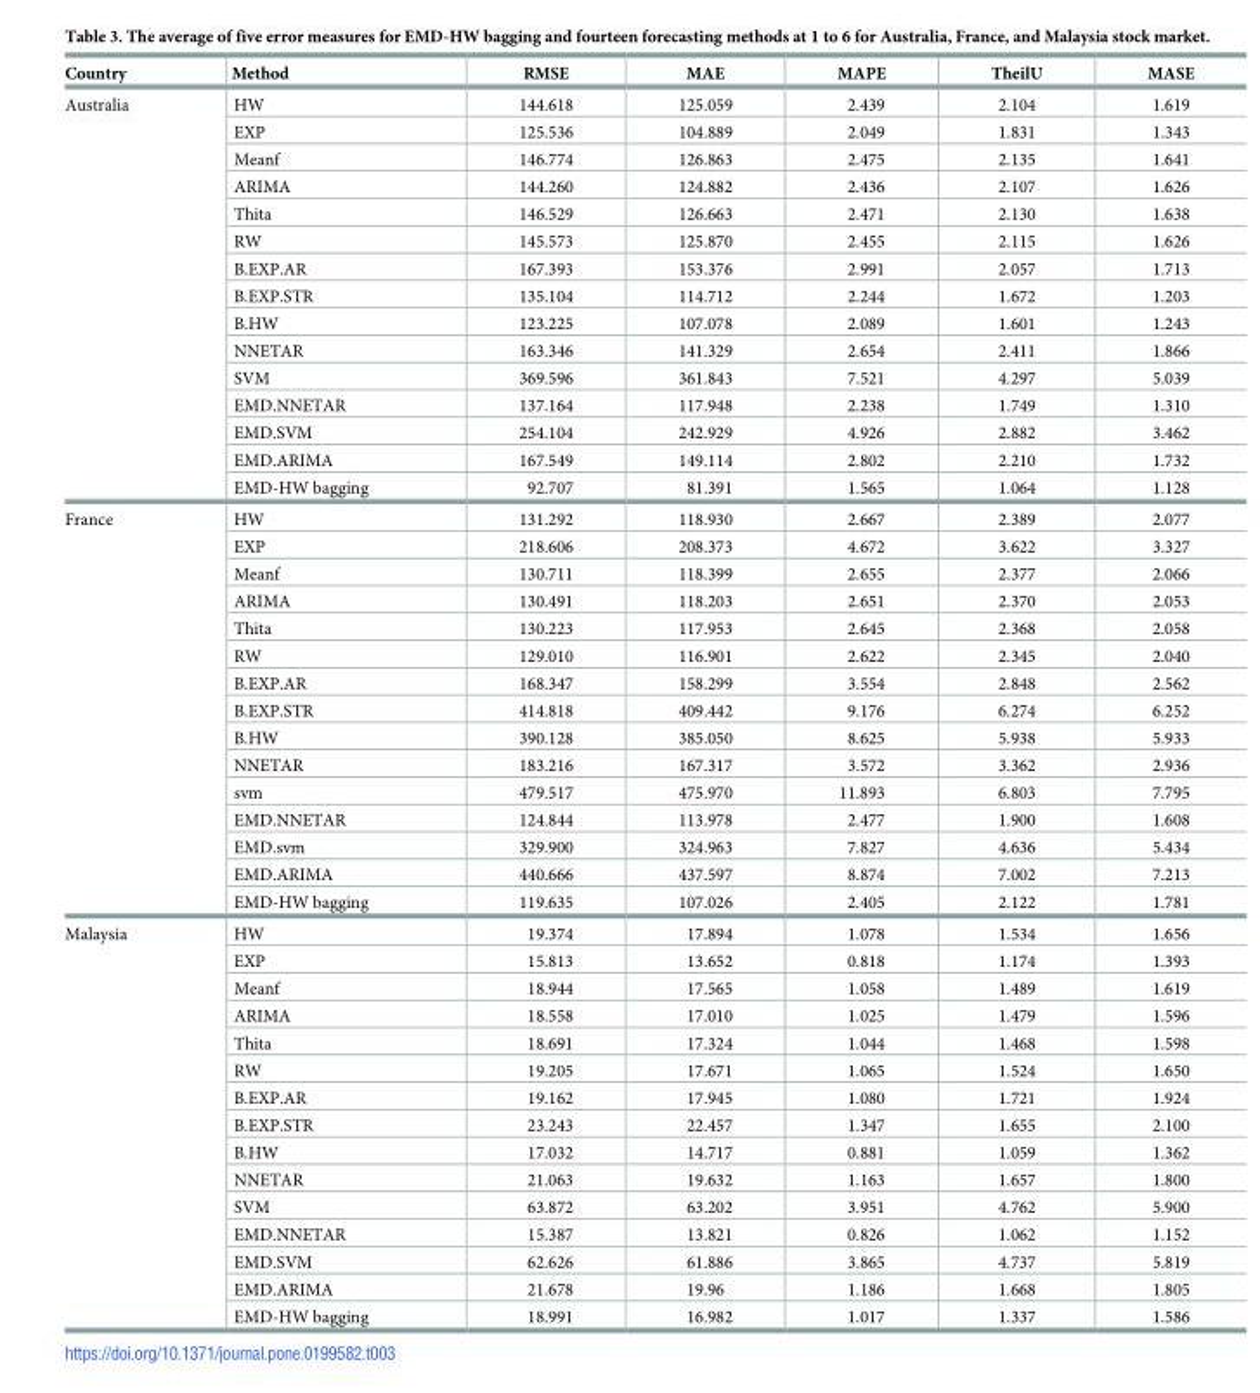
<table><thead><tr><td>Country</td><td>Method</td><td>RMSE</td><td>MAE</td><td>MAPE</td><td>TheilU</td><td>MASE</td></tr></thead><tbody><tr><td rowspan="15">Australia</td><td>HW</td><td>144.618</td><td>125.059</td><td>2.439</td><td>2.104</td><td>1.619</td></tr><tr><td>EXP</td><td>125.536</td><td>104.889</td><td>2.049</td><td>1.831</td><td>1.343</td></tr><tr><td>Meanf</td><td>146.774</td><td>126.863</td><td>2.475</td><td>2.135</td><td>1.641</td></tr><tr><td>ARIMA</td><td>144.260</td><td>124.882</td><td>2.436</td><td>2.107</td><td>1.626</td></tr><tr><td>Thita</td><td>146.529</td><td>126.663</td><td>2.471</td><td>2.130</td><td>1.638</td></tr><tr><td>RW</td><td>145.573</td><td>125.870</td><td>2.455</td><td>2.115</td><td>1.626</td></tr><tr><td>B.EXP.AR</td><td>167.393</td><td>153.376</td><td>2.991</td><td>2.057</td><td>1.713</td></tr><tr><td>B.EXP.STR</td><td>135.104</td><td>114.712</td><td>2.244</td><td>1.672</td><td>1.203</td></tr><tr><td>B.HW</td><td>123.225</td><td>107.078</td><td>2.089</td><td>1.601</td><td>1.243</td></tr><tr><td>NNETAR</td><td>163.346</td><td>141.329</td><td>2.654</td><td>2.411</td><td>1.866</td></tr><tr><td>SVM</td><td>369.596</td><td>361.843</td><td>7.521</td><td>4.297</td><td>5.039</td></tr><tr><td>EMD.NNETAR</td><td>137.164</td><td>117.948</td><td>2.238</td><td>1.749</td><td>1.310</td></tr><tr><td>EMD.SVM</td><td>254.104</td><td>242.929</td><td>4.926</td><td>2.882</td><td>3.462</td></tr><tr><td>EMD.ARIMA</td><td>167.549</td><td>149.114</td><td>2.802</td><td>2.210</td><td>1.732</td></tr><tr><td>EMD-HW bagging</td><td>92.707</td><td>81.391</td><td>1.565</td><td>1.064</td><td>1.128</td></tr><tr><td rowspan="15">France</td><td>HW</td><td>131.292</td><td>118.930</td><td>2.667</td><td>2.389</td><td>2.077</td></tr><tr><td>EXP</td><td>218.606</td><td>208.373</td><td>4.672</td><td>3.622</td><td>3.327</td></tr><tr><td>Meanf</td><td>130.711</td><td>118.399</td><td>2.655</td><td>2.377</td><td>2.066</td></tr><tr><td>ARIMA</td><td>130.491</td><td>118.203</td><td>2.651</td><td>2.370</td><td>2.053</td></tr><tr><td>Thita</td><td>130.223</td><td>117.953</td><td>2.645</td><td>2.368</td><td>2.058</td></tr><tr><td>RW</td><td>129.010</td><td>116.901</td><td>2.622</td><td>2.345</td><td>2.040</td></tr><tr><td>B.EXP.AR</td><td>168.347</td><td>158.299</td><td>3.554</td><td>2.848</td><td>2.562</td></tr><tr><td>B.EXP.STR</td><td>414.818</td><td>409.442</td><td>9.176</td><td>6.274</td><td>6.252</td></tr><tr><td>B.HW</td><td>390.128</td><td>385.050</td><td>8.625</td><td>5.938</td><td>5.933</td></tr><tr><td>NNETAR</td><td>183.216</td><td>167.317</td><td>3.572</td><td>3.362</td><td>2.936</td></tr><tr><td>svm</td><td>479.517</td><td>475.970</td><td>11.893</td><td>6.803</td><td>7.795</td></tr><tr><td>EMD.NNETAR</td><td>124.844</td><td>113.978</td><td>2.477</td><td>1.900</td><td>1.608</td></tr><tr><td>EMD.svm</td><td>329.900</td><td>324.963</td><td>7.827</td><td>4.636</td><td>5.434</td></tr><tr><td>EMD.ARIMA</td><td>440.666</td><td>437.597</td><td>8.874</td><td>7.002</td><td>7.213</td></tr><tr><td>EMD-HW bagging</td><td>119.635</td><td>107.026</td><td>2.405</td><td>2.122</td><td>1.781</td></tr><tr><td rowspan="15">Malaysia</td><td>HW</td><td>19.374</td><td>17.894</td><td>1.078</td><td>1.534</td><td>1.656</td></tr><tr><td>EXP</td><td>15.813</td><td>13.652</td><td>0.818</td><td>1.174</td><td>1.393</td></tr><tr><td>Meanf</td><td>18.944</td><td>17.565</td><td>1.058</td><td>1.489</td><td>1.619</td></tr><tr><td>ARIMA</td><td>18.558</td><td>17.010</td><td>1.025</td><td>1.479</td><td>1.596</td></tr><tr><td>Thita</td><td>18.691</td><td>17.324</td><td>1.044</td><td>1.468</td><td>1.598</td></tr><tr><td>RW</td><td>19.205</td><td>17.671</td><td>1.065</td><td>1.524</td><td>1.650</td></tr><tr><td>B.EXP.AR</td><td>19.162</td><td>17.945</td><td>1.080</td><td>1.721</td><td>1.924</td></tr><tr><td>B.EXP.STR</td><td>23.243</td><td>22.457</td><td>1.347</td><td>1.655</td><td>2.100</td></tr><tr><td>B.HW</td><td>17.032</td><td>14.717</td><td>0.881</td><td>1.059</td><td>1.362</td></tr><tr><td>NNETAR</td><td>21.063</td><td>19.632</td><td>1.163</td><td>1.657</td><td>1.800</td></tr><tr><td>SVM</td><td>63.872</td><td>63.202</td><td>3.951</td><td>4.762</td><td>5.900</td></tr><tr><td>EMD.NNETAR</td><td>15.387</td><td>13.821</td><td>0.826</td><td>1.062</td><td>1.152</td></tr><tr><td>EMD.SVM</td><td>62.626</td><td>61.886</td><td>3.865</td><td>4.737</td><td>5.819</td></tr><tr><td>EMD.ARIMA</td><td>21.678</td><td>19.96</td><td>1.186</td><td>1.668</td><td>1.805</td></tr><tr><td>EMD-HW bagging</td><td>18.991</td><td>16.982</td><td>1.017</td><td>1.337</td><td>1.586</td></tr></tbody></table>